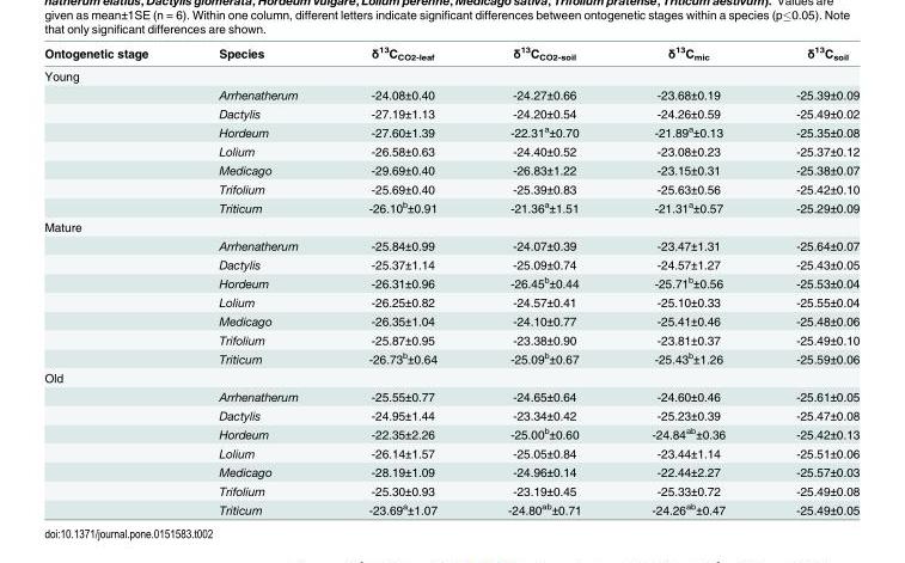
<table><thead><tr><td>Ontogenetic stage</td><td>Species</td><td>δ<sup>13</sup>C<sub>CO2-leaf</sub></td><td>δ<sup>13</sup>C<sub>CO2-soil</sub></td><td>δ<sup>13</sup>C<sub>mic</sub></td><td>δ<sup>13</sup>C<sub>soil</sub></td></tr></thead><tbody><tr><td colspan="6">Young</td></tr><tr><td></td><td>Arrhenatherum</td><td>-24.08±0.40</td><td>-24.27±0.66</td><td>-23.68±0.19</td><td>-25.39±0.09</td></tr><tr><td></td><td>Dactylis</td><td>-27.19±1.13</td><td>-24.20±0.54</td><td>-24.26±0.59</td><td>-25.49±0.02</td></tr><tr><td></td><td>Hordeum</td><td>-27.60±1.39</td><td>-22.31<sup>a</sup>±0.70</td><td>-21.89<sup>a</sup>±0.13</td><td>-25.35±0.08</td></tr><tr><td></td><td>Lolium</td><td>-26.58±0.63</td><td>-24.40±0.52</td><td>-23.08±0.23</td><td>-25.37±0.12</td></tr><tr><td></td><td>Medicago</td><td>-29.69±0.40</td><td>-26.83±1.22</td><td>-23.15±0.31</td><td>-25.38±0.07</td></tr><tr><td></td><td>Trifolium</td><td>-25.69±0.40</td><td>-25.39±0.83</td><td>-25.63±0.56</td><td>-25.42±0.10</td></tr><tr><td></td><td>Triticum</td><td>-26.10<sup>b</sup>±0.91</td><td>-21.36<sup>a</sup>±1.51</td><td>-21.31<sup>a</sup>±0.57</td><td>-25.29±0.09</td></tr><tr><td colspan="6">Mature</td></tr><tr><td></td><td>Arrhenatherum</td><td>-25.84±0.99</td><td>-24.07±0.39</td><td>-23.47±1.31</td><td>-25.64±0.07</td></tr><tr><td></td><td>Dactylis</td><td>-25.37±1.14</td><td>-25.09±0.74</td><td>-24.57±1.27</td><td>-25.43±0.05</td></tr><tr><td></td><td>Hordeum</td><td>-26.31±0.96</td><td>-26.45<sup>b</sup>±0.44</td><td>-25.71<sup>b</sup>±0.56</td><td>-25.53±0.04</td></tr><tr><td></td><td>Lolium</td><td>-26.25±0.82</td><td>-24.57±0.41</td><td>-25.10±0.33</td><td>-25.55±0.04</td></tr><tr><td></td><td>Medicago</td><td>-26.35±1.04</td><td>-24.10±0.77</td><td>-25.41±0.46</td><td>-25.48±0.06</td></tr><tr><td></td><td>Trifolium</td><td>-25.87±0.95</td><td>-23.38±0.90</td><td>-23.81±0.37</td><td>-25.49±0.10</td></tr><tr><td></td><td>Triticum</td><td>-26.73<sup>b</sup>±0.64</td><td>-25.09<sup>b</sup>±0.67</td><td>-25.43<sup>b</sup>±1.26</td><td>-25.59±0.06</td></tr><tr><td colspan="6">Old</td></tr><tr><td></td><td>Arrhenatherum</td><td>-25.55±0.77</td><td>-24.65±0.64</td><td>-24.60±0.46</td><td>-25.61±0.05</td></tr><tr><td></td><td>Dactylis</td><td>-24.95±1.44</td><td>-23.34±0.42</td><td>-25.23±0.39</td><td>-25.47±0.08</td></tr><tr><td></td><td>Hordeum</td><td>-22.35±2.26</td><td>-25.00<sup>b</sup>±0.60</td><td>-24.84<sup>ab</sup>±0.36</td><td>-25.42±0.13</td></tr><tr><td></td><td>Lolium</td><td>-26.14±1.57</td><td>-25.05±0.84</td><td>-23.44±1.14</td><td>-25.51±0.06</td></tr><tr><td></td><td>Medicago</td><td>-28.19±1.09</td><td>-24.96±0.14</td><td>-22.44±2.27</td><td>-25.57±0.03</td></tr><tr><td></td><td>Trifolium</td><td>-25.30±0.93</td><td>-23.19±0.45</td><td>-25.33±0.72</td><td>-25.49±0.08</td></tr><tr><td></td><td>Triticum</td><td>-23.69<sup>a</sup>±1.07</td><td>-24.80<sup>ab</sup>±0.71</td><td>-24.26<sup>ab</sup>±0.47</td><td>-25.49±0.05</td></tr></tbody></table>